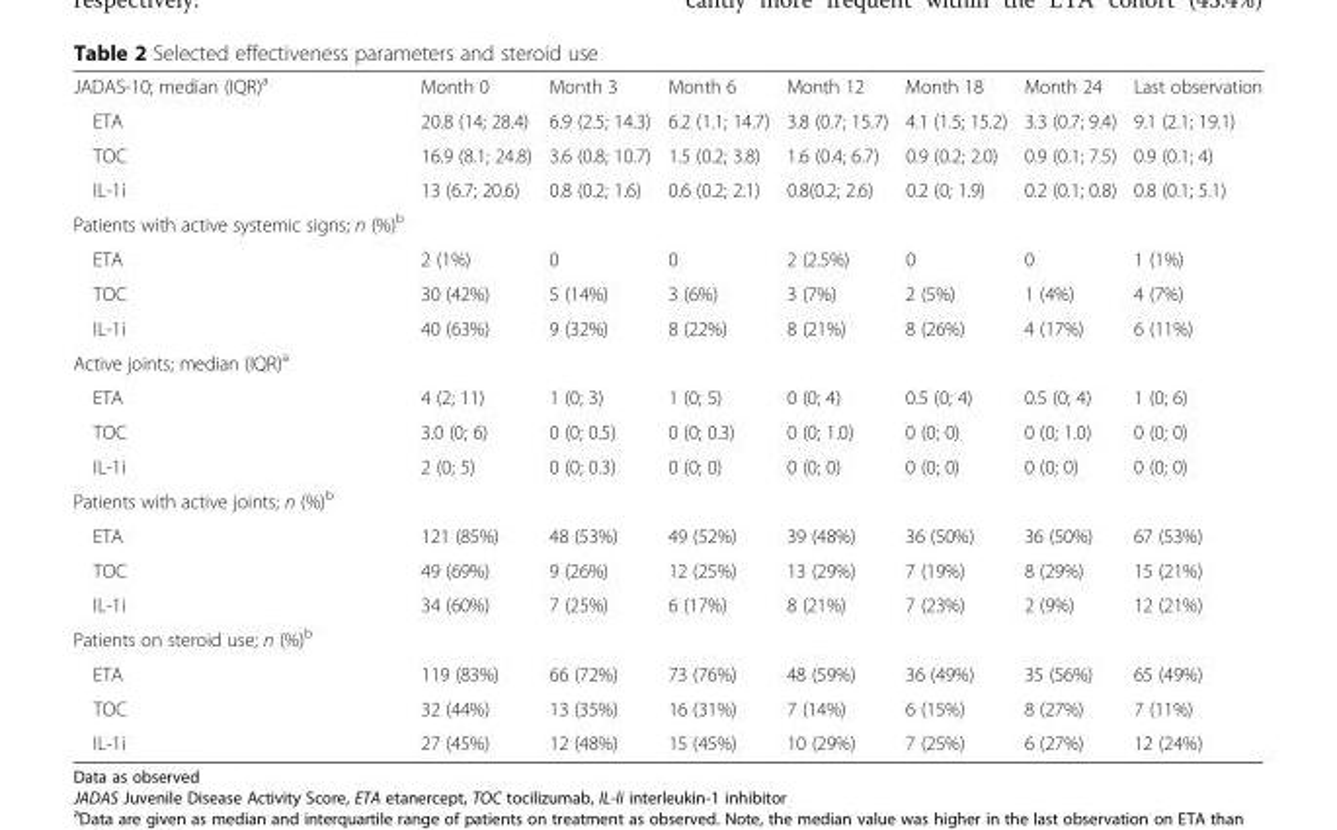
<table><tbody><tr><td>JADAS-10; median (IQR)<sup>a</sup></td><td>Month 0</td><td>Month 3</td><td>Month 6</td><td>Month 12</td><td>Month 18</td><td>Month 24</td><td>Last observation</td></tr><tr><td>ETA</td><td>20.8 (14; 28.4)</td><td>6.9 (2.5; 14.3)</td><td>6.2 (1.1; 14.7)</td><td>3.8 (0.7; 15.7)</td><td>4.1 (1.5; 15.2)</td><td>3.3 (0.7; 9.4)</td><td>9.1 (2.1; 19.1)</td></tr><tr><td>TOC</td><td>16.9 (8.1; 24.8)</td><td>3.6 (0.8; 10.7)</td><td>1.5 (0.2; 3.8)</td><td>1.6 (0.4; 6.7)</td><td>0.9 (0.2; 2.0)</td><td>0.9 (0.1; 7.5)</td><td>0.9 (0.1; 4)</td></tr><tr><td>IL-1i</td><td>13 (6.7; 20.6)</td><td>0.8 (0.2; 1.6)</td><td>0.6 (0.2; 2.1)</td><td>0.8(0.2; 2.6)</td><td>0.2 (0; 1.9)</td><td>0.2 (0.1; 0.8)</td><td>0.8 (0.1; 5.1)</td></tr><tr><td colspan="8">Patients with active systemic signs; n (%)<sup>b</sup></td></tr><tr><td>ETA</td><td>2 (1%)</td><td>0</td><td>0</td><td>2 (2.5%)</td><td>0</td><td>0</td><td>1 (1%)</td></tr><tr><td>TOC</td><td>30 (42%)</td><td>5 (14%)</td><td>3 (6%)</td><td>3 (7%)</td><td>2 (5%)</td><td>1 (4%)</td><td>4 (7%)</td></tr><tr><td>IL-1i</td><td>40 (63%)</td><td>9 (32%)</td><td>8 (22%)</td><td>8 (21%)</td><td>8 (26%)</td><td>4 (17%)</td><td>6 (11%)</td></tr><tr><td colspan="8">Active joints; median (IQR)<sup>a</sup></td></tr><tr><td>ETA</td><td>4 (2; 11)</td><td>1 (0; 3)</td><td>1 (0; 5)</td><td>0 (0; 4)</td><td>0.5 (0; 4)</td><td>0.5 (0; 4)</td><td>1 (0; 6)</td></tr><tr><td>TOC</td><td>3.0 (0; 6)</td><td>0 (0; 0.5)</td><td>0 (0; 0.3)</td><td>0 (0; 1.0)</td><td>0 (0; 0)</td><td>0 (0; 1.0)</td><td>0 (0; 0)</td></tr><tr><td>IL-1i</td><td>2 (0; 5)</td><td>0 (0; 0.3)</td><td>0 (0; 0)</td><td>0 (0; 0)</td><td>0 (0; 0)</td><td>0 (0; 0)</td><td>0 (0; 0)</td></tr><tr><td colspan="8">Patients with active joints; n (%)<sup>b</sup></td></tr><tr><td>ETA</td><td>121 (85%)</td><td>48 (53%)</td><td>49 (52%)</td><td>39 (48%)</td><td>36 (50%)</td><td>36 (50%)</td><td>67 (53%)</td></tr><tr><td>TOC</td><td>49 (69%)</td><td>9 (26%)</td><td>12 (25%)</td><td>13 (29%)</td><td>7 (19%)</td><td>8 (29%)</td><td>15 (21%)</td></tr><tr><td>IL-1i</td><td>34 (60%)</td><td>7 (25%)</td><td>6 (17%)</td><td>8 (21%)</td><td>7 (23%)</td><td>2 (9%)</td><td>12 (21%)</td></tr><tr><td colspan="8">Patients on steroid use; n (%)<sup>b</sup></td></tr><tr><td>ETA</td><td>119 (83%)</td><td>66 (72%)</td><td>73 (76%)</td><td>48 (59%)</td><td>36 (49%)</td><td>35 (56%)</td><td>65 (49%)</td></tr><tr><td>TOC</td><td>32 (44%)</td><td>13 (35%)</td><td>16 (31%)</td><td>7 (14%)</td><td>6 (15%)</td><td>8 (27%)</td><td>7 (11%)</td></tr><tr><td>IL-1i</td><td>27 (45%)</td><td>12 (48%)</td><td>15 (45%)</td><td>10 (29%)</td><td>7 (25%)</td><td>6 (27%)</td><td>12 (24%)</td></tr></tbody></table>